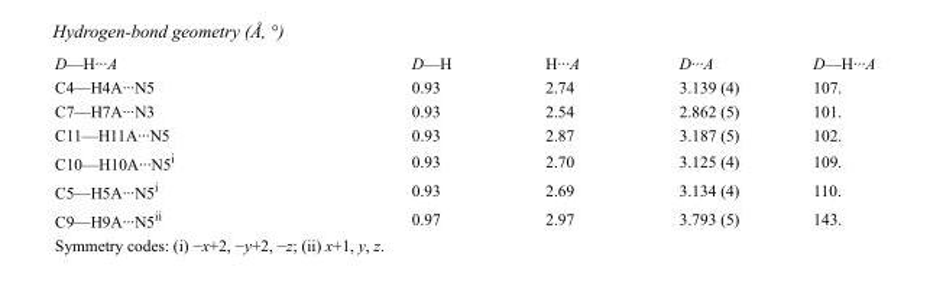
<table><tbody><tr><td>D—H···A</td><td>D—H</td><td>H···A</td><td>D···A</td><td>D—H···A</td></tr><tr><td>C4—H4A···N5</td><td>0.93</td><td>2.74</td><td>3.139 (4)</td><td>107.</td></tr><tr><td>C7—H7A···N3</td><td>0.93</td><td>2.54</td><td>2.862 (5)</td><td>101.</td></tr><tr><td>C11—H11A···N5</td><td>0.93</td><td>2.87</td><td>3.187 (5)</td><td>102.</td></tr><tr><td>C10—H10A···N5<sup>i</sup></td><td>0.93</td><td>2.70</td><td>3.125 (4)</td><td>109.</td></tr><tr><td>C5—H5A···N5<sup>i</sup></td><td>0.93</td><td>2.69</td><td>3.134 (4)</td><td>110.</td></tr><tr><td>C9—H9A···N5<sup>ii</sup></td><td>0.97</td><td>2.97</td><td>3.793 (5)</td><td>143.</td></tr></tbody></table>